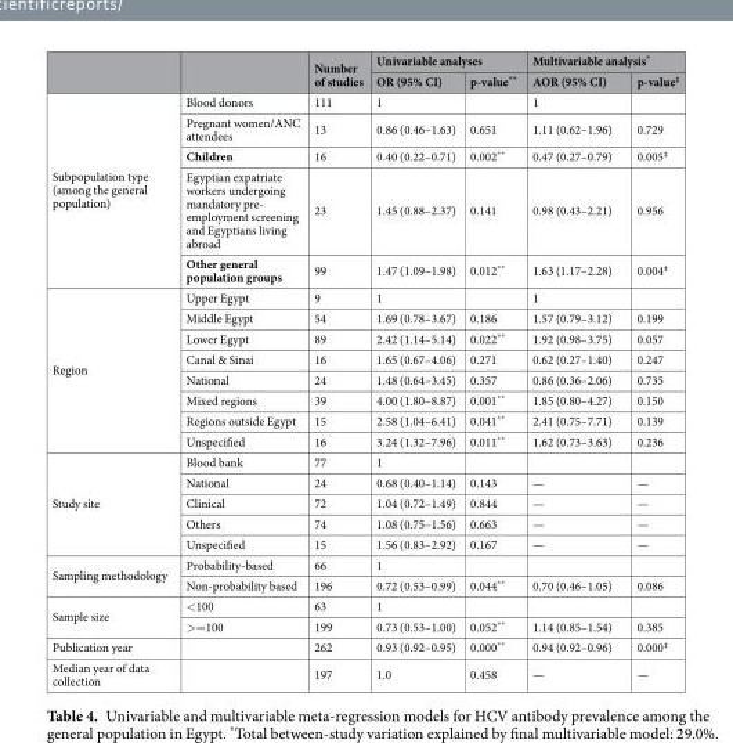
<table><thead><tr><td rowspan="2"></td><td rowspan="2"></td><td rowspan="2">Number of studies</td><td colspan="2">Univariable analyses</td><td colspan="2">Multivariable analysis*</td></tr><tr><td>OR (95% CI)</td><td>p-value**</td><td>AOR (95% CI)</td><td>p-value<sup>‡</sup></td></tr></thead><tbody><tr><td rowspan="5">Subpopulation type (among the general population)</td><td>Blood donors</td><td>111</td><td>1</td><td></td><td>1</td><td></td></tr><tr><td>Pregnant women/ANC attendees</td><td>13</td><td>0.86 (0.46–1.63)</td><td>0.651</td><td>1.11 (0.62–1.96)</td><td>0.729</td></tr><tr><td>Children</td><td>16</td><td>0.40 (0.22–0.71)</td><td>0.002**</td><td>0.47 (0.27–0.79)</td><td>0.005<sup>‡</sup></td></tr><tr><td>Egyptian expatriate workers undergoing mandatory pre- employment screening and Egyptians living abroad</td><td>23</td><td>1.45 (0.88–2.37)</td><td>0.141</td><td>0.98 (0.43–2.21)</td><td>0.956</td></tr><tr><td>Other general population groups</td><td>99</td><td>1.47 (1.09–1.98)</td><td>0.012**</td><td>1.63 (1.17–2.28)</td><td>0.004<sup>‡</sup></td></tr><tr><td rowspan="8">Region</td><td>Upper Egypt</td><td>9</td><td>1</td><td></td><td>1</td><td></td></tr><tr><td>Middle Egypt</td><td>54</td><td>1.69 (0.78–3.67)</td><td>0.186</td><td>1.57 (0.79–3.12)</td><td>0.199</td></tr><tr><td>Lower Egypt</td><td>89</td><td>2.42 (1.14–5.14)</td><td>0.022**</td><td>1.92 (0.98–3.75)</td><td>0.057</td></tr><tr><td>Canal &amp; Sinai</td><td>16</td><td>1.65 (0.67–4.06)</td><td>0.271</td><td>0.62 (0.27–1.40)</td><td>0.247</td></tr><tr><td>National</td><td>24</td><td>1.48 (0.64–3.45)</td><td>0.357</td><td>0.86 (0.36–2.06)</td><td>0.735</td></tr><tr><td>Mixed regions</td><td>39</td><td>4.00 (1.80–8.87)</td><td>0.001**</td><td>1.85 (0.80–4.27)</td><td>0.150</td></tr><tr><td>Regions outside Egypt</td><td>15</td><td>2.58 (1.04–6.41)</td><td>0.041**</td><td>2.41 (0.75–7.71)</td><td>0.139</td></tr><tr><td>Unspecified</td><td>16</td><td>3.24 (1.32–7.96)</td><td>0.011**</td><td>1.62 (0.73–3.63)</td><td>0.236</td></tr><tr><td rowspan="5">Study site</td><td>Blood bank</td><td>77</td><td>1</td><td></td><td></td><td></td></tr><tr><td>National</td><td>24</td><td>0.68 (0.40–1.14)</td><td>0.143</td><td>—</td><td>—</td></tr><tr><td>Clinical</td><td>72</td><td>1.04 (0.72–1.49)</td><td>0.844</td><td>—</td><td>—</td></tr><tr><td>Others</td><td>74</td><td>1.08 (0.75–1.56)</td><td>0.663</td><td>—</td><td>—</td></tr><tr><td>Unspecified</td><td>15</td><td>1.56 (0.83–2.92)</td><td>0.167</td><td>—</td><td>—</td></tr><tr><td rowspan="2">Sampling methodology</td><td>Probability-based</td><td>66</td><td>1</td><td></td><td></td><td></td></tr><tr><td>Non-probability based</td><td>196</td><td>0.72 (0.53–0.99)</td><td>0.044**</td><td>0.70 (0.46–1.05)</td><td>0.086</td></tr><tr><td rowspan="2">Sample size</td><td>&lt;100</td><td>63</td><td>1</td><td></td><td></td><td></td></tr><tr><td>&gt;=100</td><td>199</td><td>0.73 (0.53–1.00)</td><td>0.052**</td><td>1.14 (0.85–1.54)</td><td>0.385</td></tr><tr><td>Publication year</td><td></td><td>262</td><td>0.93 (0.92–0.95)</td><td>0.000**</td><td>0.94 (0.92–0.96)</td><td>0.000<sup>‡</sup></td></tr><tr><td>Median year of data collection</td><td></td><td>197</td><td>1.0</td><td>0.458</td><td>—</td><td>—</td></tr></tbody></table>